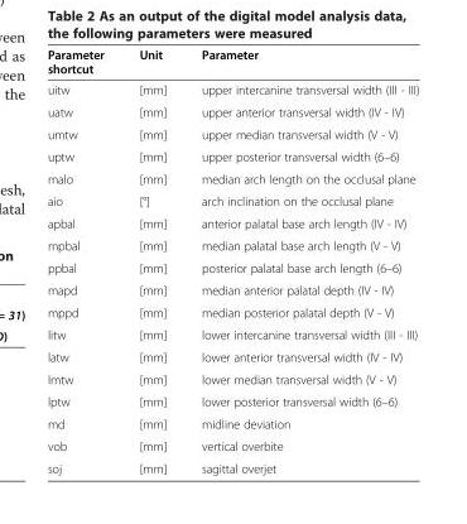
<table><thead><tr><td>Parameter shortcut</td><td>Unit</td><td>Parameter</td></tr></thead><tbody><tr><td>uitw</td><td>[mm]</td><td>upper intercanine transversal width (III - III)</td></tr><tr><td>uatw</td><td>[mm]</td><td>upper anterior transversal width (IV - IV)</td></tr><tr><td>umtw</td><td>[mm]</td><td>upper median transversal width (V - V)</td></tr><tr><td>uptw</td><td>[mm]</td><td>upper posterior transversal width (6–6)</td></tr><tr><td>malo</td><td>[mm]</td><td>median arch length on the occlusal plane</td></tr><tr><td>aio</td><td>[°]</td><td>arch inclination on the occlusal plane</td></tr><tr><td>apbal</td><td>[mm]</td><td>anterior palatal base arch length (IV - IV)</td></tr><tr><td>mpbal</td><td>[mm]</td><td>median palatal base arch length (V - V)</td></tr><tr><td>ppbal</td><td>[mm]</td><td>posterior palatal base arch length (6–6)</td></tr><tr><td>mapd</td><td>[mm]</td><td>median anterior palatal depth (IV - IV)</td></tr><tr><td>mppd</td><td>[mm]</td><td>median posterior palatal depth (V - V)</td></tr><tr><td>litw</td><td>[mm]</td><td>lower intercanine transversal width (III - III)</td></tr><tr><td>latw</td><td>[mm]</td><td>lower anterior transversal width (IV - IV)</td></tr><tr><td>lmtw</td><td>[mm]</td><td>lower median transversal width (V - V)</td></tr><tr><td>lptw</td><td>[mm]</td><td>lower posterior transversal width (6–6)</td></tr><tr><td>md</td><td>[mm]</td><td>midline deviation</td></tr><tr><td>vob</td><td>[mm]</td><td>vertical overbite</td></tr><tr><td>soj</td><td>[mm]</td><td>sagittal overjet</td></tr></tbody></table>